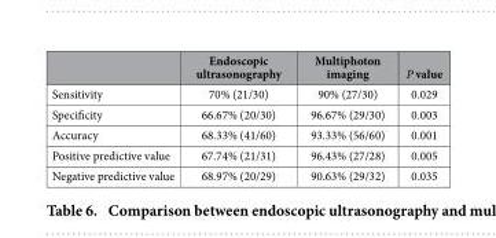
<table><thead><tr><td></td><td>Endoscopic ultrasonography</td><td>Multiphoton imaging</td><td>P value</td></tr></thead><tbody><tr><td>Sensitivity</td><td>70% (21/30)</td><td>90% (27/30)</td><td>0.029</td></tr><tr><td>Specificity</td><td>66.67% (20/30)</td><td>96.67% (29/30)</td><td>0.003</td></tr><tr><td>Accuracy</td><td>68.33% (41/60)</td><td>93.33% (56/60)</td><td>0.001</td></tr><tr><td>Positive predictive value</td><td>67.74% (21/31)</td><td>96.43% (27/28)</td><td>0.005</td></tr><tr><td>Negative predictive value</td><td>68.97% (20/29)</td><td>90.63% (29/32)</td><td>0.035</td></tr></tbody></table>